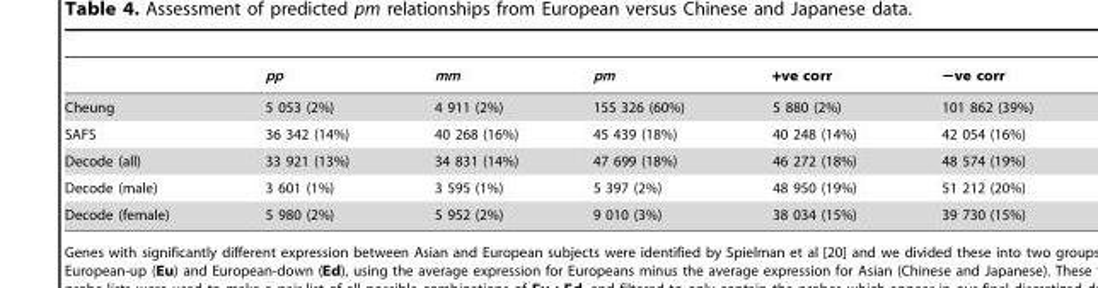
<table><thead><tr><td></td><td>pp</td><td>mm</td><td>pm</td><td>+ve corr</td><td>−ve corr</td></tr></thead><tbody><tr><td>Cheung</td><td>5 053 (2%)</td><td>4 911 (2%)</td><td>155 326 (60%)</td><td>5 880 (2%)</td><td>101 862 (39%)</td></tr><tr><td>SAFS</td><td>36 342 (14%)</td><td>40 268 (16%)</td><td>45 439 (18%)</td><td>40 248 (14%)</td><td>42 054 (16%)</td></tr><tr><td>Decode (all)</td><td>33 921 (13%)</td><td>34 831 (14%)</td><td>47 699 (18%)</td><td>46 272 (18%)</td><td>48 574 (19%)</td></tr><tr><td>Decode (male)</td><td>3 601 (1%)</td><td>3 595 (1%)</td><td>5 397 (2%)</td><td>48 950 (19%)</td><td>51 212 (20%)</td></tr><tr><td>Decode (female)</td><td>5 980 (2%)</td><td>5 952 (2%)</td><td>9 010 (3%)</td><td>38 034 (15%)</td><td>39 730 (15%)</td></tr></tbody></table>